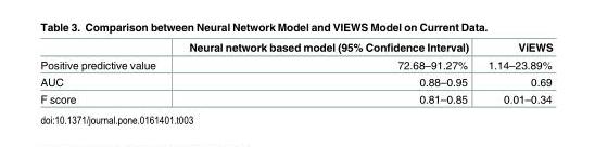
<table><thead><tr><td></td><td>Neural network based model (95% Confidence Interval)</td><td>ViEWS</td></tr></thead><tbody><tr><td>Positive predictive value</td><td>72.68–91.27%</td><td>1.14–23.89%</td></tr><tr><td>AUC</td><td>0.88–0.95</td><td>0.69</td></tr><tr><td>F score</td><td>0.81–0.85</td><td>0.01–0.34</td></tr></tbody></table>